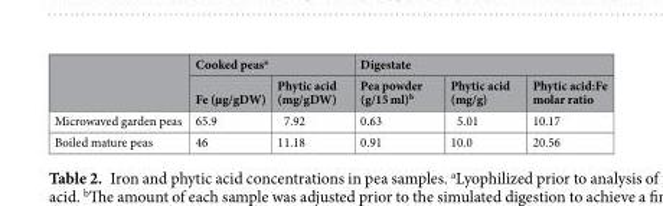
<table><thead><tr><td rowspan="2"></td><td colspan="2">Cooked peas<sup>a</sup></td><td colspan="3">Digestate</td></tr><tr><td>Fe (µg/gDW)</td><td>Phytic acid (mg/gDW)</td><td>Pea powder (g/15 ml)<sup>b</sup></td><td>Phytic acid (mg/g)</td><td>Phytic acid:Fe molar ratio</td></tr></thead><tbody><tr><td>Microwaved garden peas</td><td>65.9</td><td>7.92</td><td>0.63</td><td>5.01</td><td>10.17</td></tr><tr><td>Boiled mature peas</td><td>46</td><td>11.18</td><td>0.91</td><td>10.0</td><td>20.56</td></tr></tbody></table>